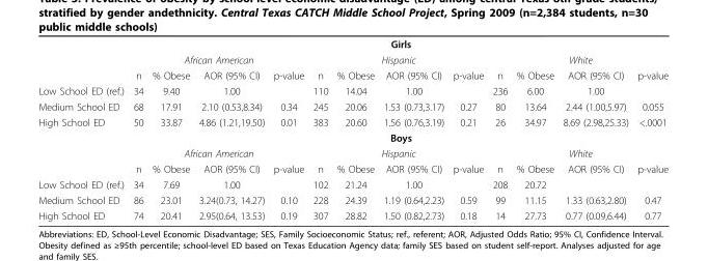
<table><thead><tr><td rowspan="3"></td><td colspan="12">Girls</td></tr><tr><td colspan="4">African American</td><td colspan="4">Hispanic</td><td colspan="4">White</td></tr><tr><td>n</td><td>% Obese</td><td>AOR (95% CI)</td><td>p-value</td><td>n</td><td>% Obese</td><td>AOR (95% CI)</td><td>p-value</td><td>n</td><td>% Obese</td><td>AOR (95% CI)</td><td>p-value</td></tr></thead><tbody><tr><td>Low School ED (ref.)</td><td>34</td><td>9.40</td><td>1.00</td><td></td><td>110</td><td>14.04</td><td>1.00</td><td></td><td>236</td><td>6.00</td><td>1.00</td><td></td></tr><tr><td>Medium School ED</td><td>68</td><td>17.91</td><td>2.10 (0.53,8.34)</td><td>0.34</td><td>245</td><td>20.06</td><td>1.53 (0.73,3.17)</td><td>0.27</td><td>80</td><td>13.64</td><td>2.44 (1.00,5.97)</td><td>0.055</td></tr><tr><td rowspan="4">High School ED</td><td>50</td><td>33.87</td><td>4.86 (1.21,19.50)</td><td>0.01</td><td>383</td><td>20.60</td><td>1.56 (0.76,3.19)</td><td>0.21</td><td>26</td><td>34.97</td><td>8.69 (2.98,25.33)</td><td>&lt;.0001</td></tr><tr><td colspan="12">Boys</td></tr><tr><td colspan="4">African American</td><td colspan="4">Hispanic</td><td colspan="4">White</td></tr><tr><td>n</td><td>% Obese</td><td>AOR (95% CI)</td><td>p-value</td><td>n</td><td>% Obese</td><td>AOR (95% CI)</td><td>p-value</td><td>n</td><td>% Obese</td><td>AOR (95% CI)</td><td>p-value</td></tr><tr><td>Low School ED (ref.)</td><td>34</td><td>7.69</td><td>1.00</td><td></td><td>102</td><td>21.24</td><td>1.00</td><td></td><td>208</td><td>20.72</td><td></td><td></td></tr><tr><td>Medium School ED</td><td>86</td><td>23.01</td><td>3.24(0.73, 14.27)</td><td>0.10</td><td>228</td><td>24.39</td><td>1.19 (0.64,2.23)</td><td>0.59</td><td>99</td><td>11.15</td><td>1.33 (0.63,2.80)</td><td>0.47</td></tr><tr><td>High School ED</td><td>74</td><td>20.41</td><td>2.95(0.64, 13.53)</td><td>0.19</td><td>307</td><td>28.82</td><td>1.50 (0.82,2.73)</td><td>0.18</td><td>14</td><td>27.73</td><td>0.77 (0.09,6.44)</td><td>0.77</td></tr></tbody></table>